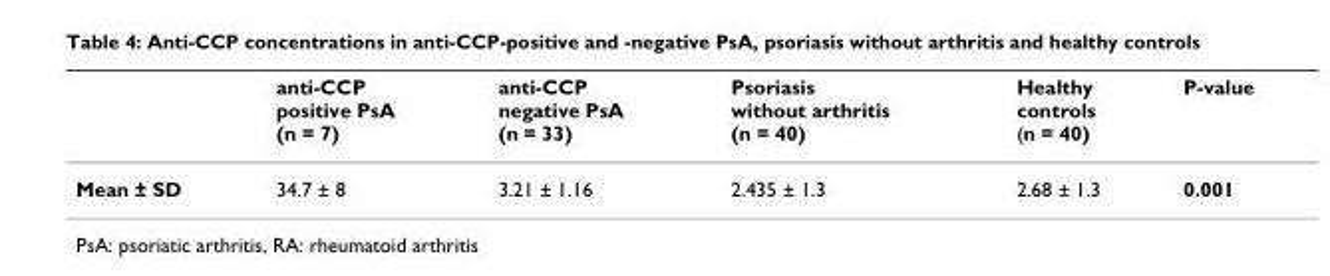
<table><thead><tr><td></td><td>anti-CCP positive PsA (n = 7)</td><td>anti-CCP negative PsA (n = 33)</td><td>Psoriasis without arthritis (n = 40)</td><td>Healthy controls (n = 40)</td><td>P-value</td></tr></thead><tbody><tr><td>Mean ± SD</td><td>34.7 ± 8</td><td>3.21 ± 1.16</td><td>2.435 ± 1.3</td><td>2.68 ± 1.3</td><td>0.001</td></tr></tbody></table>